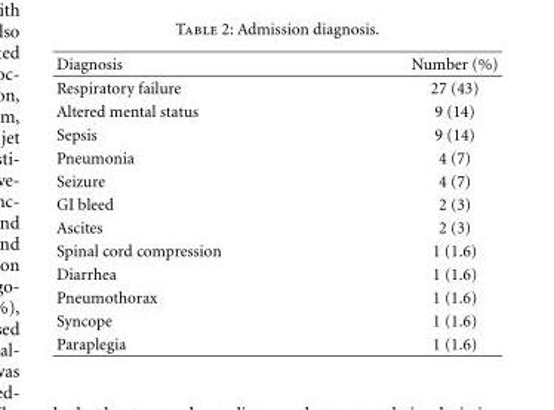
<table><thead><tr><td>Diagnosis</td><td>Number (%)</td></tr></thead><tbody><tr><td>Respiratory failure</td><td>27 (43)</td></tr><tr><td>Altered mental status</td><td>9 (14)</td></tr><tr><td>Sepsis</td><td>9 (14)</td></tr><tr><td>Pneumonia</td><td>4 (7)</td></tr><tr><td>Seizure</td><td>4 (7)</td></tr><tr><td>GI bleed</td><td>2 (3)</td></tr><tr><td>Ascites</td><td>2 (3)</td></tr><tr><td>Spinal cord compression</td><td>1 (1.6)</td></tr><tr><td>Diarrhea</td><td>1 (1.6)</td></tr><tr><td>Pneumothorax</td><td>1 (1.6)</td></tr><tr><td>Syncope</td><td>1 (1.6)</td></tr><tr><td>Paraplegia</td><td>1 (1.6)</td></tr></tbody></table>